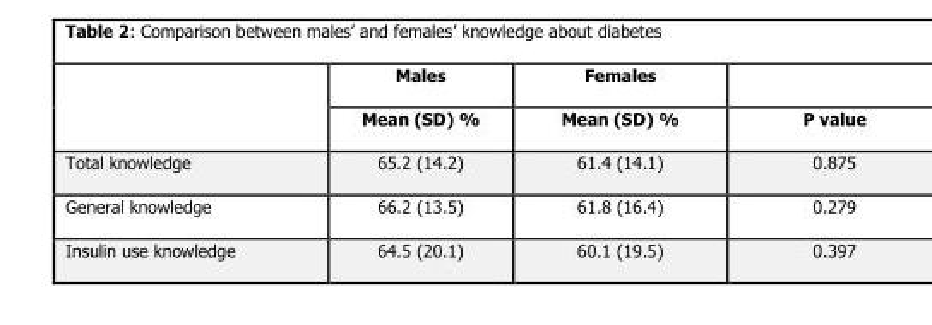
<table><thead><tr><td rowspan="2"></td><td rowspan="2">Males Mean (SD) %</td><td rowspan="2">Females Mean (SD) %</td><td rowspan="2">P value</td></tr><tr></tr></thead><tbody><tr><td>Total knowledge</td><td>65.2 (14.2)</td><td>61.4 (14.1)</td><td>0.875</td></tr><tr><td>General knowledge</td><td>66.2 (13.5)</td><td>61.8 (16.4)</td><td>0.279</td></tr><tr><td>Insulin use knowledge</td><td>64.5 (20.1)</td><td>60.1 (19.5)</td><td>0.397</td></tr></tbody></table>